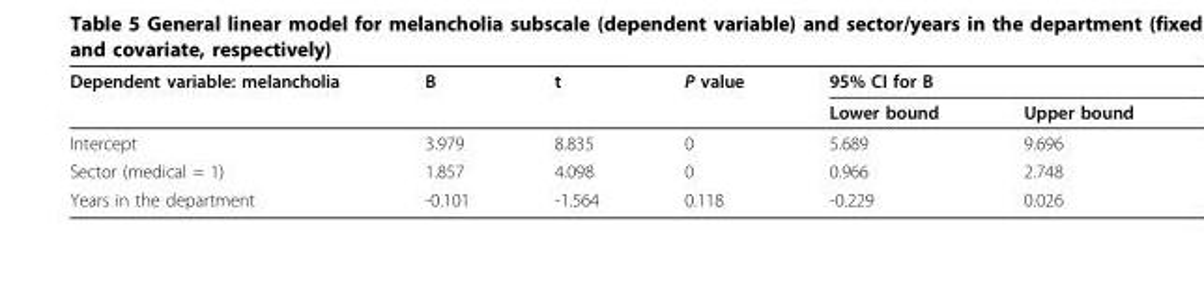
<table><thead><tr><td rowspan="2">Dependent variable: melancholia</td><td rowspan="2">B</td><td rowspan="2">t</td><td rowspan="2">P value</td><td colspan="2">95% CI for B</td></tr><tr><td>Lower bound</td><td>Upper bound</td></tr></thead><tbody><tr><td>Intercept</td><td>3.979</td><td>8.835</td><td>0</td><td>5.689</td><td>9.696</td></tr><tr><td>Sector (medical = 1)</td><td>1.857</td><td>4.098</td><td>0</td><td>0.966</td><td>2.748</td></tr><tr><td>Years in the department</td><td>-0.101</td><td>-1.564</td><td>0.118</td><td>-0.229</td><td>0.026</td></tr></tbody></table>